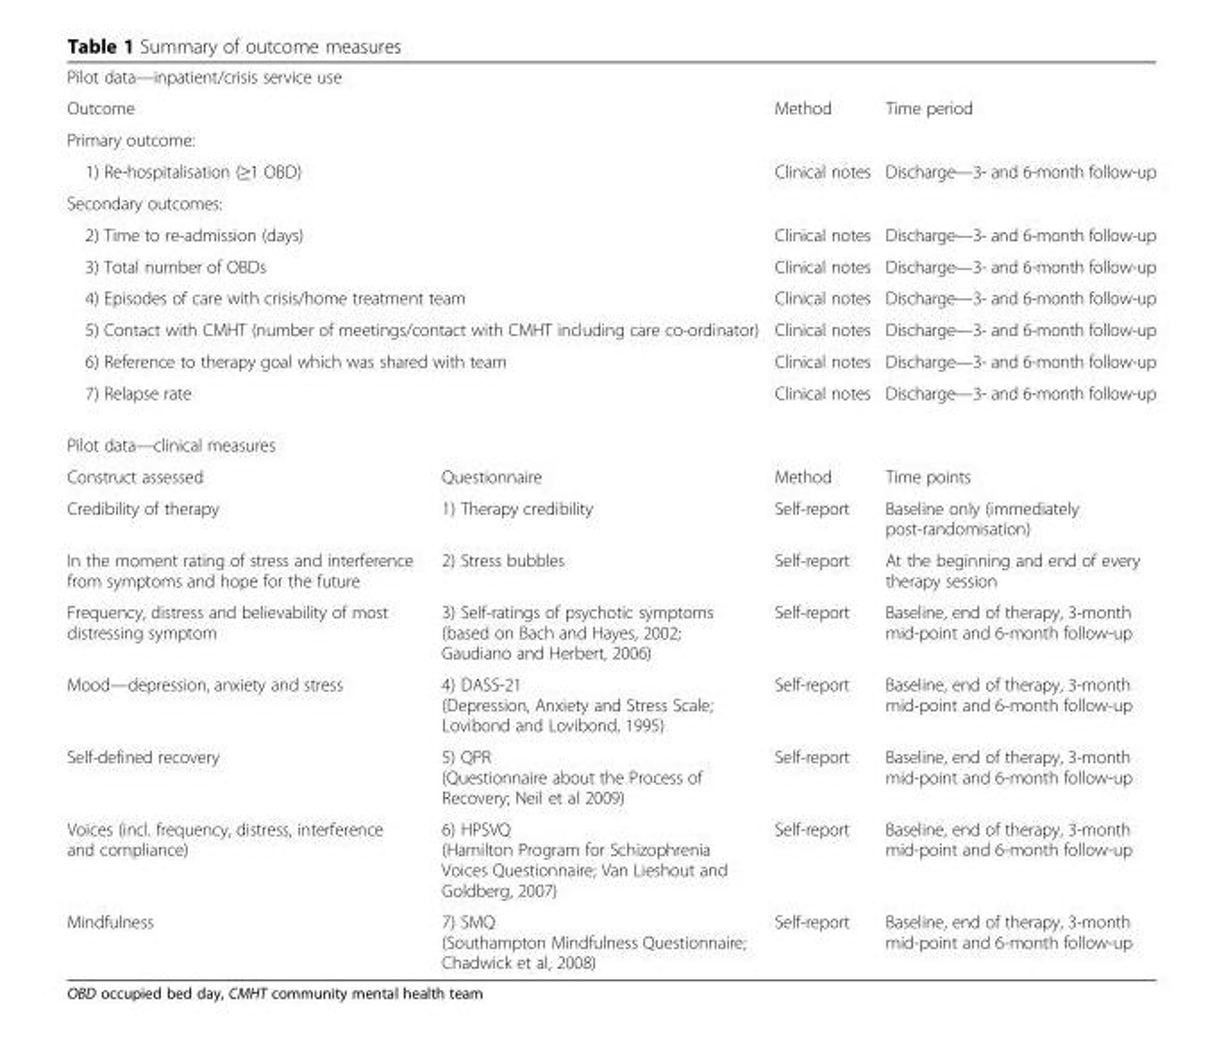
<table><tbody><tr><td colspan="4">Pilot data—inpatient/crisis service use</td></tr><tr><td colspan="2">Outcome</td><td>Method</td><td>Time period</td></tr><tr><td colspan="4">Primary outcome:</td></tr><tr><td colspan="2">1) Re-hospitalisation (≥1 OBD)</td><td>Clinical notes</td><td>Discharge—3- and 6-month follow-up</td></tr><tr><td colspan="4">Secondary outcomes:</td></tr><tr><td colspan="2">2) Time to re-admission (days)</td><td>Clinical notes</td><td>Discharge—3- and 6-month follow-up</td></tr><tr><td colspan="2">3) Total number of OBDs</td><td>Clinical notes</td><td>Discharge—3- and 6-month follow-up</td></tr><tr><td colspan="2">4) Episodes of care with crisis/home treatment team</td><td>Clinical notes</td><td>Discharge—3- and 6-month follow-up</td></tr><tr><td colspan="2">5) Contact with CMHT (number of meetings/contact with CMHT including care co-ordinator)</td><td>Clinical notes</td><td>Discharge—3- and 6-month follow-up</td></tr><tr><td colspan="2">6) Reference to therapy goal which was shared with team</td><td>Clinical notes</td><td>Discharge—3- and 6-month follow-up</td></tr><tr><td colspan="2">7) Relapse rate</td><td>Clinical notes</td><td>Discharge—3- and 6-month follow-up</td></tr><tr><td colspan="4">Pilot data—clinical measures</td></tr><tr><td>Construct assessed</td><td>Questionnaire</td><td>Method</td><td>Time points</td></tr><tr><td>Credibility of therapy</td><td>1) Therapy credibility</td><td>Self-report</td><td>Baseline only (immediately post-randomisation)</td></tr><tr><td>In the moment rating of stress and interference from symptoms and hope for the future</td><td>2) Stress bubbles</td><td>Self-report</td><td>At the beginning and end of every therapy session</td></tr><tr><td>Frequency, distress and believability of most distressing symptom</td><td>3) Self-ratings of psychotic symptoms (based on Bach and Hayes, 2002; Gaudiano and Herbert, 2006)</td><td>Self-report</td><td>Baseline, end of therapy, 3-month mid-point and 6-month follow-up</td></tr><tr><td>Mood—depression, anxiety and stress</td><td>4) DASS-21 (Depression, Anxiety and Stress Scale; Lovibond and Lovibond, 1995)</td><td>Self-report</td><td>Baseline, end of therapy, 3-month mid-point and 6-month follow-up</td></tr><tr><td>Self-defined recovery</td><td>5) QPR (Questionnaire about the Process of Recovery; Neil et al 2009)</td><td>Self-report</td><td>Baseline, end of therapy, 3-month mid-point and 6-month follow-up</td></tr><tr><td>Voices (incl. frequency, distress, interference and compliance)</td><td>6) HPSVQ (Hamilton Program for Schizophrenia Voices Questionnaire; Van Lieshout and Goldberg, 2007)</td><td>Self-report</td><td>Baseline, end of therapy, 3-month mid-point and 6-month follow-up</td></tr><tr><td>Mindfulness</td><td>7) SMQ (Southampton Mindfulness Questionnaire; Chadwick et al, 2008)</td><td>Self-report</td><td>Baseline, end of therapy, 3-month mid-point and 6-month follow-up</td></tr></tbody></table>